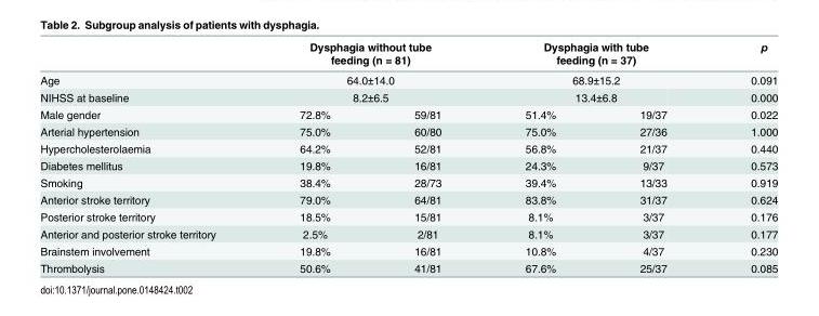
<table><thead><tr><td rowspan="4">Age NIHSS at baseline Male gender</td><td rowspan="3" colspan="2">Dysphagia without tube feeding (n = 81) 64.0±14.0 8.2±6.5</td><td rowspan="3" colspan="2">Dysphagia with tube feeding (n = 37) 68.9±15.2 13.4±6.8</td><td rowspan="4">p 0.091 0.000 0.022</td></tr><tr></tr><tr></tr><tr><td>72.8%</td><td>59/81</td><td>51.4%</td><td>19/37</td></tr></thead><tbody><tr><td>Arterial hypertension</td><td>75.0%</td><td>60/80</td><td>75.0%</td><td>27/36</td><td>1.000</td></tr><tr><td>Hypercholesterolaemia</td><td>64.2%</td><td>52/81</td><td>56.8%</td><td>21/37</td><td>0.440</td></tr><tr><td>Diabetes mellitus</td><td>19.8%</td><td>16/81</td><td>24.3%</td><td>9/37</td><td>0.573</td></tr><tr><td>Smoking</td><td>38.4%</td><td>28/73</td><td>39.4%</td><td>13/33</td><td>0.919</td></tr><tr><td>Anterior stroke territory</td><td>79.0%</td><td>64/81</td><td>83.8%</td><td>31/37</td><td>0.624</td></tr><tr><td>Posterior stroke territory</td><td>18.5%</td><td>15/81</td><td>8.1%</td><td>3/37</td><td>0.176</td></tr><tr><td>Anterior and posterior stroke territory</td><td>2.5%</td><td>2/81</td><td>8.1%</td><td>3/37</td><td>0.177</td></tr><tr><td>Brainstem involvement</td><td>19.8%</td><td>16/81</td><td>10.8%</td><td>4/37</td><td>0.230</td></tr><tr><td>Thrombolysis</td><td>50.6%</td><td>41/81</td><td>67.6%</td><td>25/37</td><td>0.085</td></tr></tbody></table>